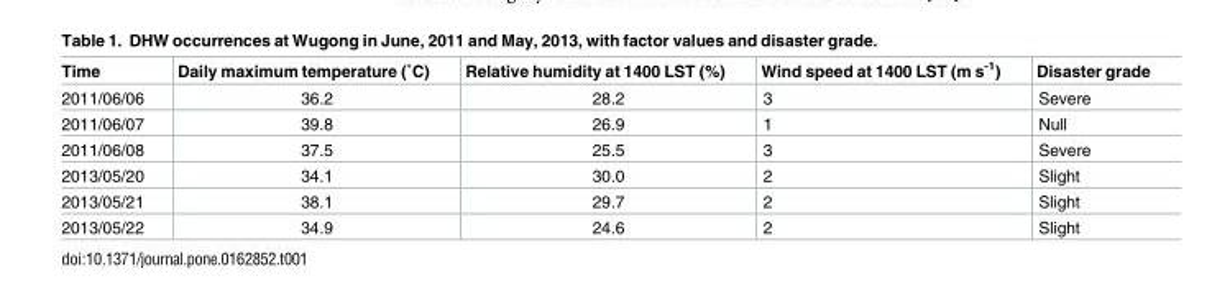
<table><thead><tr><td>Time</td><td>Daily maximum temperature (˚C)</td><td>Relative humidity at 1400 LST (%)</td><td>Wind speed at 1400 LST (m s<sup>-1</sup>)</td><td>Disaster grade</td></tr></thead><tbody><tr><td>2011/06/06</td><td>36.2</td><td>28.2</td><td>3</td><td>Severe</td></tr><tr><td>2011/06/07</td><td>39.8</td><td>26.9</td><td>1</td><td>Null</td></tr><tr><td>2011/06/08</td><td>37.5</td><td>25.5</td><td>3</td><td>Severe</td></tr><tr><td>2013/05/20</td><td>34.1</td><td>30.0</td><td>2</td><td>Slight</td></tr><tr><td>2013/05/21</td><td>38.1</td><td>29.7</td><td>2</td><td>Slight</td></tr><tr><td>2013/05/22</td><td>34.9</td><td>24.6</td><td>2</td><td>Slight</td></tr></tbody></table>